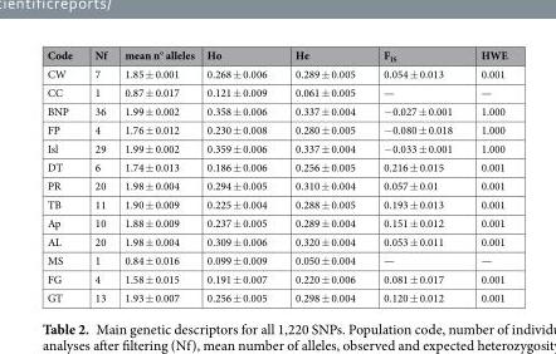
<table><thead><tr><td>Code</td><td>Nf</td><td>mean n° alleles</td><td>Ho</td><td>He</td><td>F<sub>IS</sub></td><td>HWE</td></tr></thead><tbody><tr><td>CW</td><td>7</td><td>1.85 ± 0.001</td><td>0.268 ± 0.006</td><td>0.289 ± 0.005</td><td>0.054 ± 0.013</td><td>0.001</td></tr><tr><td>CC</td><td>1</td><td>0.87 ± 0.017</td><td>0.121 ± 0.009</td><td>0.061 ± 0.005</td><td>—</td><td>—</td></tr><tr><td>BNP</td><td>36</td><td>1.99 ± 0.002</td><td>0.358 ± 0.006</td><td>0.337 ± 0.004</td><td>−0.027 ± 0.001</td><td>1.000</td></tr><tr><td>FP</td><td>4</td><td>1.76 ± 0.012</td><td>0.230 ± 0.008</td><td>0.280 ± 0.005</td><td>−0.080 ± 0.018</td><td>1.000</td></tr><tr><td>Isl</td><td>29</td><td>1.99 ± 0.002</td><td>0.359 ± 0.006</td><td>0.337 ± 0.004</td><td>−0.033 ± 0.001</td><td>1.000</td></tr><tr><td>DT</td><td>6</td><td>1.74 ± 0.013</td><td>0.186 ± 0.006</td><td>0.256 ± 0.005</td><td>0.216 ± 0.015</td><td>0.001</td></tr><tr><td>PR</td><td>20</td><td>1.98 ± 0.004</td><td>0.294 ± 0.005</td><td>0.310 ± 0.004</td><td>0.057 ± 0.01</td><td>0.001</td></tr><tr><td>TB</td><td>11</td><td>1.90 ± 0.009</td><td>0.225 ± 0.004</td><td>0.288 ± 0.005</td><td>0.193 ± 0.013</td><td>0.001</td></tr><tr><td>Ap</td><td>10</td><td>1.88 ± 0.009</td><td>0.237 ± 0.005</td><td>0.289 ± 0.004</td><td>0.151 ± 0.012</td><td>0.001</td></tr><tr><td>AL</td><td>20</td><td>1.98 ± 0.004</td><td>0.309 ± 0.006</td><td>0.320 ± 0.004</td><td>0.053 ± 0.011</td><td>0.001</td></tr><tr><td>MS</td><td>1</td><td>0.84 ± 0.016</td><td>0.099 ± 0.009</td><td>0.050 ± 0.004</td><td>—</td><td>—</td></tr><tr><td>FG</td><td>4</td><td>1.58 ± 0.015</td><td>0.191 ± 0.007</td><td>0.220 ± 0.006</td><td>0.081 ± 0.017</td><td>0.001</td></tr><tr><td>GT</td><td>13</td><td>1.93 ± 0.007</td><td>0.256 ± 0.005</td><td>0.298 ± 0.004</td><td>0.120 ± 0.012</td><td>0.001</td></tr></tbody></table>